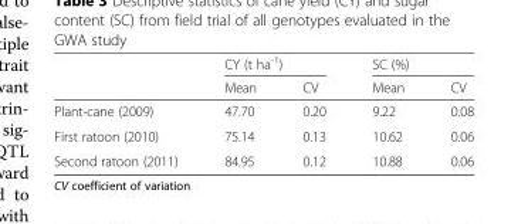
<table><thead><tr><td rowspan="2"></td><td colspan="2">CY (t ha<sup>-1</sup>)</td><td colspan="2">SC (%)</td></tr><tr><td>Mean</td><td>CV</td><td>Mean</td><td>CV</td></tr></thead><tbody><tr><td>Plant-cane (2009)</td><td>47.70</td><td>0.20</td><td>9.22</td><td>0.08</td></tr><tr><td>First ratoon (2010)</td><td>75.14</td><td>0.13</td><td>10.62</td><td>0.06</td></tr><tr><td>Second ratoon (2011)</td><td>84.95</td><td>0.12</td><td>10.88</td><td>0.06</td></tr></tbody></table>